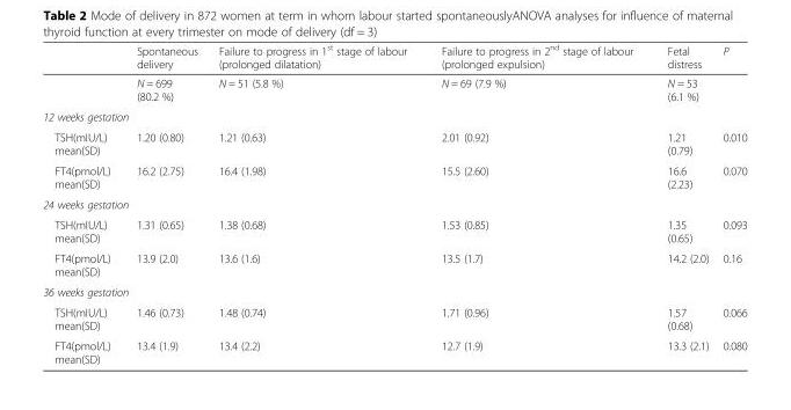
<table><thead><tr><td></td><td>Spontaneous delivery</td><td>Failure to progress in 1<sup>st</sup> stage of labour (prolonged dilatation)</td><td>Failure to progress in 2<sup>nd</sup> stage of labour (prolonged expulsion)</td><td>Fetal distress</td><td>P</td></tr></thead><tbody><tr><td></td><td>N = 699 (80.2 %)</td><td>N = 51 (5.8 %)</td><td>N = 69 (7.9 %)</td><td>N = 53 (6.1 %)</td><td></td></tr><tr><td colspan="6">12 weeks gestation</td></tr><tr><td>TSH(mIU/L) mean(SD)</td><td>1.20 (0.80)</td><td>1.21 (0.63)</td><td>2.01 (0.92)</td><td>1.21 (0.79)</td><td>0.010</td></tr><tr><td>FT4(pmol/L) mean(SD)</td><td>16.2 (2.75)</td><td>16.4 (1.98)</td><td>15.5 (2.60)</td><td>16.6 (2.23)</td><td>0.070</td></tr><tr><td colspan="6">24 weeks gestation</td></tr><tr><td>TSH(mIU/L) mean(SD)</td><td>1.31 (0.65)</td><td>1.38 (0.68)</td><td>1.53 (0.85)</td><td>1.35 (0.65)</td><td>0.093</td></tr><tr><td>FT4(pmol/L) mean(SD)</td><td>13.9 (2.0)</td><td>13.6 (1.6)</td><td>13.5 (1.7)</td><td>14.2 (2.0)</td><td>0.16</td></tr><tr><td colspan="6">36 weeks gestation</td></tr><tr><td>TSH(mIU/L) mean(SD)</td><td>1.46 (0.73)</td><td>1.48 (0.74)</td><td>1.71 (0.96)</td><td>1.57 (0.68)</td><td>0.066</td></tr><tr><td>FT4(pmol/L) mean(SD)</td><td>13.4 (1.9)</td><td>13.4 (2.2)</td><td>12.7 (1.9)</td><td>13.3 (2.1)</td><td>0.080</td></tr></tbody></table>